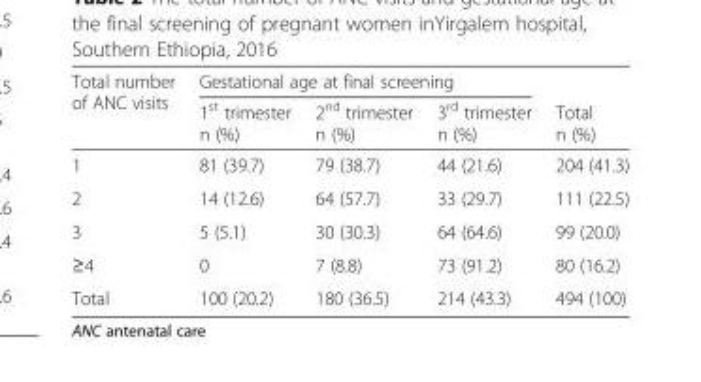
<table><thead><tr><td rowspan="2">Total number of ANC visits</td><td colspan="3">Gestational age at final screening</td><td rowspan="2">Total n (%)</td></tr><tr><td>1<sup>st</sup> trimester n (%)</td><td>2<sup>nd</sup> trimester n (%)</td><td>3<sup>rd</sup> trimester n (%)</td></tr></thead><tbody><tr><td>1</td><td>81 (39.7)</td><td>79 (38.7)</td><td>44 (21.6)</td><td>204 (41.3)</td></tr><tr><td>2</td><td>14 (12.6)</td><td>64 (57.7)</td><td>33 (29.7)</td><td>111 (22.5)</td></tr><tr><td>3</td><td>5 (5.1)</td><td>30 (30.3)</td><td>64 (64.6)</td><td>99 (20.0)</td></tr><tr><td>≥4</td><td>0</td><td>7 (8.8)</td><td>73 (91.2)</td><td>80 (16.2)</td></tr><tr><td>Total</td><td>100 (20.2)</td><td>180 (36.5)</td><td>214 (43.3)</td><td>494 (100)</td></tr></tbody></table>